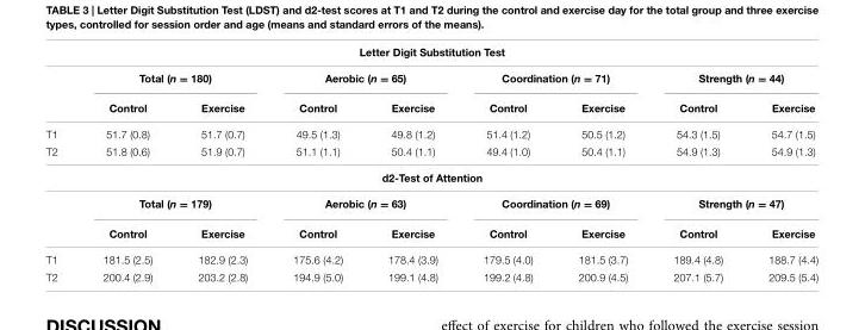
<table><thead><tr><td colspan="9">Letter Digit Substitution Test</td></tr><tr><td rowspan="2"></td><td colspan="2">Total (n = 180)</td><td colspan="2">Aerobic (n = 65)</td><td colspan="2">Coordination (n = 71)</td><td colspan="2">Strength (n = 44)</td></tr><tr><td>Control</td><td>Exercise</td><td>Control</td><td>Exercise</td><td>Control</td><td>Exercise</td><td>Control</td><td>Exercise</td></tr></thead><tbody><tr><td>T1</td><td>51.7 (0.8)</td><td>51.7 (0.7)</td><td>49.5 (1.3)</td><td>49.8 (1.2)</td><td>51.4 (1.2)</td><td>50.5 (1.2)</td><td>54.3 (1.5)</td><td>54.7 (1.5)</td></tr><tr><td>T2</td><td>51.8 (0.6)</td><td>51.9 (0.7)</td><td>51.1 (1.1)</td><td>50.4 (1.1)</td><td>49.4 (1.0)</td><td>50.4 (1.1)</td><td>54.9 (1.3)</td><td>54.9 (1.3)</td></tr><tr><td colspan="9">d2-Test of Attention</td></tr><tr><td></td><td colspan="2">Total (n = 179)</td><td colspan="2">Aerobic (n = 63)</td><td colspan="2">Coordination (n = 69)</td><td colspan="2">Strength (n = 47)</td></tr><tr><td></td><td>Control</td><td>Exercise</td><td>Control</td><td>Exercise</td><td>Control</td><td>Exercise</td><td>Control</td><td>Exercise</td></tr><tr><td>T1</td><td>181.5 (2.5)</td><td>182.9 (2.3)</td><td>175.6 (4.2)</td><td>178.4 (3.9)</td><td>179.5 (4.0)</td><td>181.5 (3.7)</td><td>189.4 (4.8)</td><td>188.7 (4.4)</td></tr><tr><td>T2</td><td>200.4 (2.9)</td><td>203.2 (2.8)</td><td>194.9 (5.0)</td><td>199.1 (4.8)</td><td>199.2 (4.8)</td><td>200.9 (4.5)</td><td>207.1 (5.7)</td><td>209.5 (5.4)</td></tr></tbody></table>